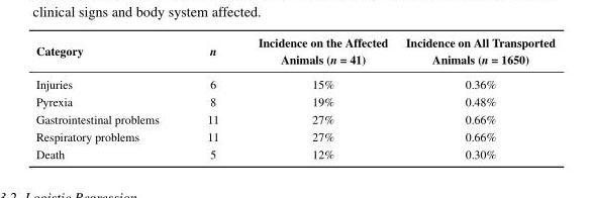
<table><thead><tr><td>Category</td><td>n</td><td>Incidence on the Affected Animals (n = 41)</td><td>Incidence on All Transported Animals (n = 1650)</td></tr></thead><tbody><tr><td>Injuries</td><td>6</td><td>15%</td><td>0.36%</td></tr><tr><td>Pyrexia</td><td>8</td><td>19%</td><td>0.48%</td></tr><tr><td>Gastrointestinal problems</td><td>11</td><td>27%</td><td>0.66%</td></tr><tr><td>Respiratory problems</td><td>11</td><td>27%</td><td>0.66%</td></tr><tr><td>Death</td><td>5</td><td>12%</td><td>0.30%</td></tr></tbody></table>